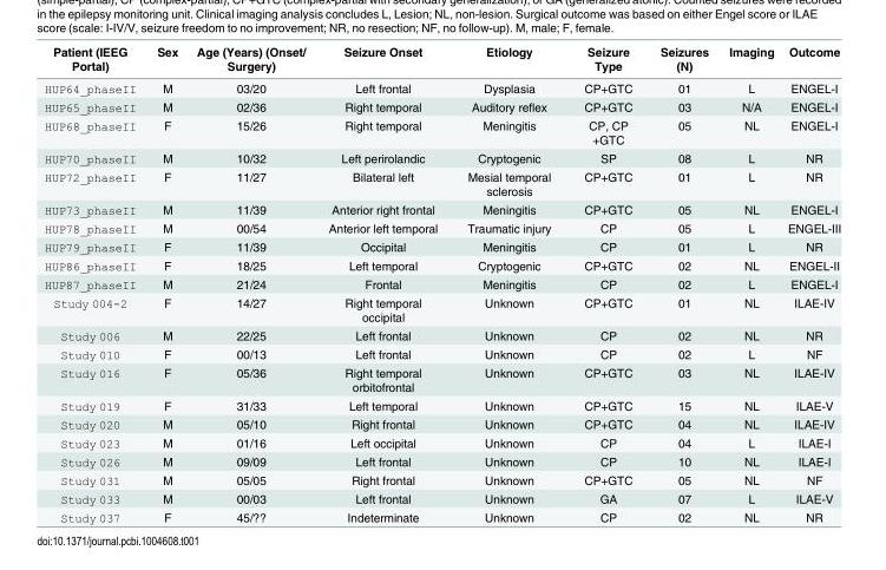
<table><thead><tr><td>Patient (IEEG Portal)</td><td>Sex</td><td>Age (Years) (Onset/ Surgery)</td><td>Seizure Onset</td><td>Etiology</td><td>Seizure Type</td><td>Seizures (N)</td><td>Imaging</td><td>Outcome</td></tr></thead><tbody><tr><td>HUP64_phaseII</td><td>M</td><td>03/20</td><td>Left frontal</td><td>Dysplasia</td><td>CP+GTC</td><td>01</td><td>L</td><td>ENGEL-I</td></tr><tr><td>HUP65_phaseII</td><td>M</td><td>02/36</td><td>Right temporal</td><td>Auditory reflex</td><td>CP+GTC</td><td>03</td><td>N/A</td><td>ENGEL-I</td></tr><tr><td>HUP68_phaseII</td><td>F</td><td>15/26</td><td>Right temporal</td><td>Meningitis</td><td>CP, CP +GTC</td><td>05</td><td>NL</td><td>ENGEL-I</td></tr><tr><td>HUP70_phaseII</td><td>M</td><td>10/32</td><td>Left perirolandic</td><td>Cryptogenic</td><td>SP</td><td>08</td><td>L</td><td>NR</td></tr><tr><td>HUP72_phaseII</td><td>F</td><td>11/27</td><td>Bilateral left</td><td>Mesial temporal sclerosis</td><td>CP+GTC</td><td>01</td><td>L</td><td>NR</td></tr><tr><td>HUP73_phaseII</td><td>M</td><td>11/39</td><td>Anterior right frontal</td><td>Meningitis</td><td>CP+GTC</td><td>05</td><td>NL</td><td>ENGEL-I</td></tr><tr><td>HUP78_phaseII</td><td>M</td><td>00/54</td><td>Anterior left temporal</td><td>Traumatic injury</td><td>CP</td><td>05</td><td>L</td><td>ENGEL-III</td></tr><tr><td>HUP79_phaseII</td><td>F</td><td>11/39</td><td>Occipital</td><td>Meningitis</td><td>CP</td><td>01</td><td>L</td><td>NR</td></tr><tr><td>HUP86_phaseII</td><td>F</td><td>18/25</td><td>Left temporal</td><td>Cryptogenic</td><td>CP+GTC</td><td>02</td><td>NL</td><td>ENGEL-II</td></tr><tr><td>HUP87_phaseII</td><td>M</td><td>21/24</td><td>Frontal</td><td>Meningitis</td><td>CP</td><td>02</td><td>L</td><td>ENGEL-I</td></tr><tr><td>Study 004-2</td><td>F</td><td>14/27</td><td>Right temporal occipital</td><td>Unknown</td><td>CP+GTC</td><td>01</td><td>NL</td><td>ILAE-IV</td></tr><tr><td>Study 006</td><td>M</td><td>22/25</td><td>Left frontal</td><td>Unknown</td><td>CP</td><td>02</td><td>NL</td><td>NR</td></tr><tr><td>Study 010</td><td>F</td><td>00/13</td><td>Left frontal</td><td>Unknown</td><td>CP</td><td>02</td><td>L</td><td>NF</td></tr><tr><td>Study 016</td><td>F</td><td>05/36</td><td>Right temporal orbitofrontal</td><td>Unknown</td><td>CP+GTC</td><td>03</td><td>NL</td><td>ILAE-IV</td></tr><tr><td>Study 019</td><td>F</td><td>31/33</td><td>Left temporal</td><td>Unknown</td><td>CP+GTC</td><td>15</td><td>NL</td><td>ILAE-V</td></tr><tr><td>Study 020</td><td>M</td><td>05/10</td><td>Right frontal</td><td>Unknown</td><td>CP+GTC</td><td>04</td><td>NL</td><td>ILAE-IV</td></tr><tr><td>Study 023</td><td>M</td><td>01/16</td><td>Left occipital</td><td>Unknown</td><td>CP</td><td>04</td><td>L</td><td>ILAE-I</td></tr><tr><td>Study 026</td><td>M</td><td>09/09</td><td>Left frontal</td><td>Unknown</td><td>CP</td><td>10</td><td>NL</td><td>ILAE-I</td></tr><tr><td>Study 031</td><td>M</td><td>05/05</td><td>Right frontal</td><td>Unknown</td><td>CP+GTC</td><td>05</td><td>NL</td><td>NF</td></tr><tr><td>Study 033</td><td>M</td><td>00/03</td><td>Left frontal</td><td>Unknown</td><td>GA</td><td>07</td><td>L</td><td>ILAE-V</td></tr><tr><td>Study 037</td><td>F</td><td>45/??</td><td>Indeterminate</td><td>Unknown</td><td>CP</td><td>02</td><td>NL</td><td>NR</td></tr></tbody></table>